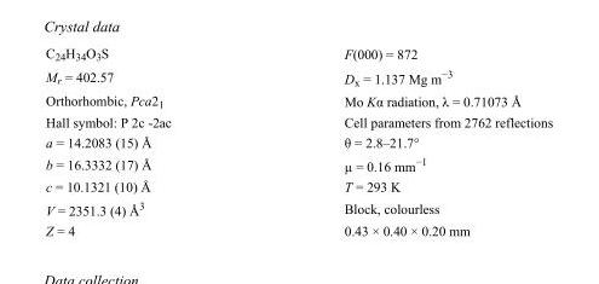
<table><tbody><tr><td>C<sub>24</sub>H<sub>34</sub>O<sub>3</sub>S</td><td>F(000) = 872</td></tr><tr><td>M<sub>r</sub> = 402.57</td><td>D<sub>x</sub> = 1.137 Mg m<sup>−3</sup></td></tr><tr><td>Orthorhombic, Pca2<sub>1</sub></td><td>Mo Kα radiation, λ = 0.71073 Å</td></tr><tr><td>Hall symbol: P 2c -2ac</td><td>Cell parameters from 2762 reflections</td></tr><tr><td>a = 14.2083 (15) Å</td><td>θ = 2.8–21.7°</td></tr><tr><td>b = 16.3332 (17) Å</td><td>µ = 0.16 mm<sup>−1</sup></td></tr><tr><td>c = 10.1321 (10) Å</td><td>T = 293 K</td></tr><tr><td>V = 2351.3 (4) Å<sup>3</sup></td><td>Block, colourless</td></tr><tr><td>Z = 4</td><td>0.43 × 0.40 × 0.20 mm</td></tr></tbody></table>